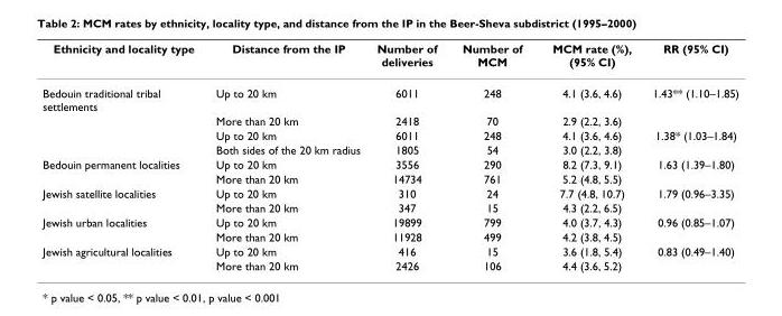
<table><thead><tr><td>Ethnicity and locality type</td><td>Distance from the IP</td><td>Number of deliveries</td><td>Number of MCM</td><td>MCM rate (%), (95% CI)</td><td>RR (95% CI)</td></tr></thead><tbody><tr><td rowspan="4">Bedouin traditional tribal settlements</td><td>Up to 20 km</td><td>6011</td><td>248</td><td>4.1 (3.6, 4.6)</td><td>1.43** (1.10–1.85)</td></tr><tr><td>More than 20 km</td><td>2418</td><td>70</td><td>2.9 (2.2, 3.6)</td><td></td></tr><tr><td>Up to 20 km</td><td>6011</td><td>248</td><td>4.1 (3.6, 4.6)</td><td>1.38* (1.03–1.84)</td></tr><tr><td>Both sides of the 20 km radius</td><td>1805</td><td>54</td><td>3.0 (2.2, 3.8)</td><td></td></tr><tr><td rowspan="2">Bedouin permanent localities</td><td>Up to 20 km</td><td>3556</td><td>290</td><td>8.2 (7.3, 9.1)</td><td>1.63 (1.39–1.80)</td></tr><tr><td>More than 20 km</td><td>14734</td><td>761</td><td>5.2 (4.8, 5.5)</td><td></td></tr><tr><td rowspan="2">Jewish satellite localities</td><td>Up to 20 km</td><td>310</td><td>24</td><td>7.7 (4.8, 10.7)</td><td>1.79 (0.96–3.35)</td></tr><tr><td>More than 20 km</td><td>347</td><td>15</td><td>4.3 (2.2, 6.5)</td><td></td></tr><tr><td rowspan="2">Jewish urban localities</td><td>Up to 20 km</td><td>19899</td><td>799</td><td>4.0 (3.7, 4.3)</td><td>0.96 (0.85–1.07)</td></tr><tr><td>More than 20 km</td><td>11928</td><td>499</td><td>4.2 (3.8, 4.5)</td><td></td></tr><tr><td rowspan="2">Jewish agricultural localities</td><td>Up to 20 km</td><td>416</td><td>15</td><td>3.6 (1.8, 5.4)</td><td>0.83 (0.49–1.40)</td></tr><tr><td>More than 20 km</td><td>2426</td><td>106</td><td>4.4 (3.6, 5.2)</td><td></td></tr></tbody></table>